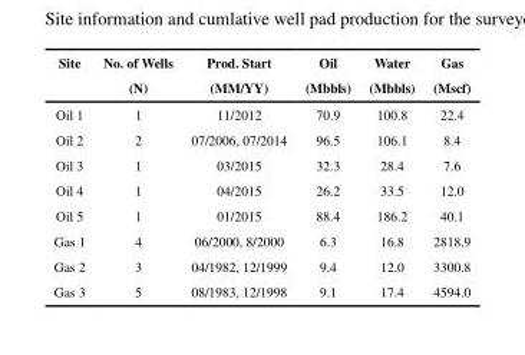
<table><thead><tr><td rowspan="2">Site</td><td rowspan="2">No. of Wells (N)</td><td rowspan="2">Prod. Start (MM/YY)</td><td rowspan="2">Oil (Mbbls)</td><td rowspan="2">Water (Mbbls)</td><td rowspan="2">Gas (Mscf)</td></tr><tr></tr></thead><tbody><tr><td>Oil 1</td><td>1</td><td>11/2012</td><td>70.9</td><td>100.8</td><td>22.4</td></tr><tr><td>Oil 2</td><td>2</td><td>07/2006, 07/2014</td><td>96.5</td><td>106.1</td><td>8.4</td></tr><tr><td>Oil 3</td><td>1</td><td>03/2015</td><td>32.3</td><td>28.4</td><td>7.6</td></tr><tr><td>Oil 4</td><td>1</td><td>04/2015</td><td>26.2</td><td>33.5</td><td>12.0</td></tr><tr><td>Oil 5</td><td>1</td><td>01/2015</td><td>88.4</td><td>186.2</td><td>40.1</td></tr><tr><td>Gas 1</td><td>4</td><td>06/2000, 8/2000</td><td>6.3</td><td>16.8</td><td>2818.9</td></tr><tr><td>Gas 2</td><td>3</td><td>04/1982, 12/1999</td><td>9.4</td><td>12.0</td><td>3300.8</td></tr><tr><td>Gas 3</td><td>5</td><td>08/1983, 12/1998</td><td>9.1</td><td>17.4</td><td>4594.0</td></tr></tbody></table>